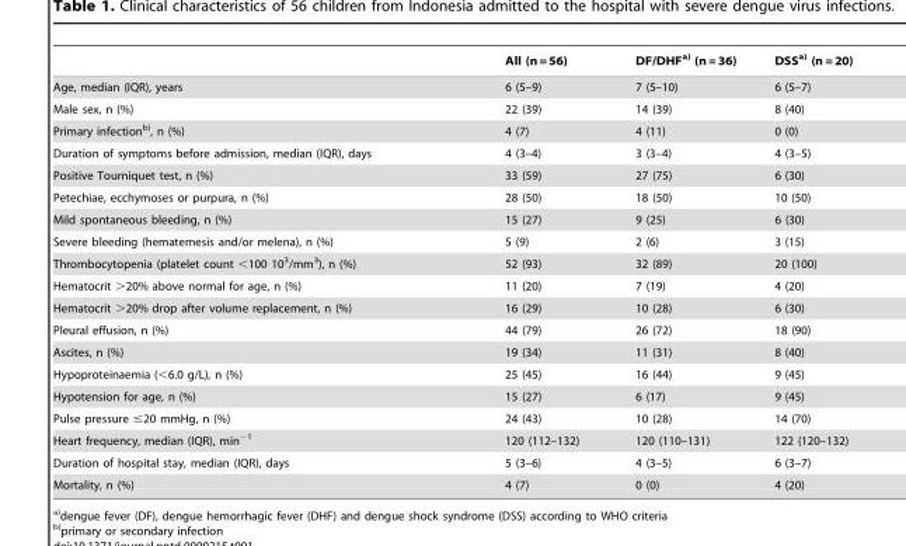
<table><thead><tr><td></td><td>All (n = 56)</td><td>DF/DHFa) (n = 36)</td><td>DSSa) (n = 20)</td></tr></thead><tbody><tr><td>Age, median (IQR), years</td><td>6 (5–9)</td><td>7 (5–10)</td><td>6 (5–7)</td></tr><tr><td>Male sex, n (%)</td><td>22 (39)</td><td>14 (39)</td><td>8 (40)</td></tr><tr><td>Primary infectionb), n (%)</td><td>4 (7)</td><td>4 (11)</td><td>0 (0)</td></tr><tr><td>Duration of symptoms before admission, median (IQR), days</td><td>4 (3–4)</td><td>3 (3–4)</td><td>4 (3–5)</td></tr><tr><td>Positive Tourniquet test, n (%)</td><td>33 (59)</td><td>27 (75)</td><td>6 (30)</td></tr><tr><td>Petechiae, ecchymoses or purpura, n (%)</td><td>28 (50)</td><td>18 (50)</td><td>10 (50)</td></tr><tr><td>Mild spontaneous bleeding, n (%)</td><td>15 (27)</td><td>9 (25)</td><td>6 (30)</td></tr><tr><td>Severe bleeding (hematemesis and/or melena), n (%)</td><td>5 (9)</td><td>2 (6)</td><td>3 (15)</td></tr><tr><td>Thrombocytopenia (platelet count &lt;100 10<sup>3</sup>/mm<sup>3</sup>), n (%)</td><td>52 (93)</td><td>32 (89)</td><td>20 (100)</td></tr><tr><td>Hematocrit &gt;20% above normal for age, n (%)</td><td>11 (20)</td><td>7 (19)</td><td>4 (20)</td></tr><tr><td>Hematocrit &gt;20% drop after volume replacement, n (%)</td><td>16 (29)</td><td>10 (28)</td><td>6 (30)</td></tr><tr><td>Pleural effusion, n (%)</td><td>44 (79)</td><td>26 (72)</td><td>18 (90)</td></tr><tr><td>Ascites, n (%)</td><td>19 (34)</td><td>11 (31)</td><td>8 (40)</td></tr><tr><td>Hypoproteinaemia (&lt;6.0 g/L), n (%)</td><td>25 (45)</td><td>16 (44)</td><td>9 (45)</td></tr><tr><td>Hypotension for age, n (%)</td><td>15 (27)</td><td>6 (17)</td><td>9 (45)</td></tr><tr><td>Pulse pressure ≤20 mmHg, n (%)</td><td>24 (43)</td><td>10 (28)</td><td>14 (70)</td></tr><tr><td>Heart frequency, median (IQR), min<sup>−1</sup></td><td>120 (112–132)</td><td>120 (110–131)</td><td>122 (120–132)</td></tr><tr><td>Duration of hospital stay, median (IQR), days</td><td>5 (3–6)</td><td>4 (3–5)</td><td>6 (3–7)</td></tr><tr><td>Mortality, n (%)</td><td>4 (7)</td><td>0 (0)</td><td>4 (20)</td></tr></tbody></table>